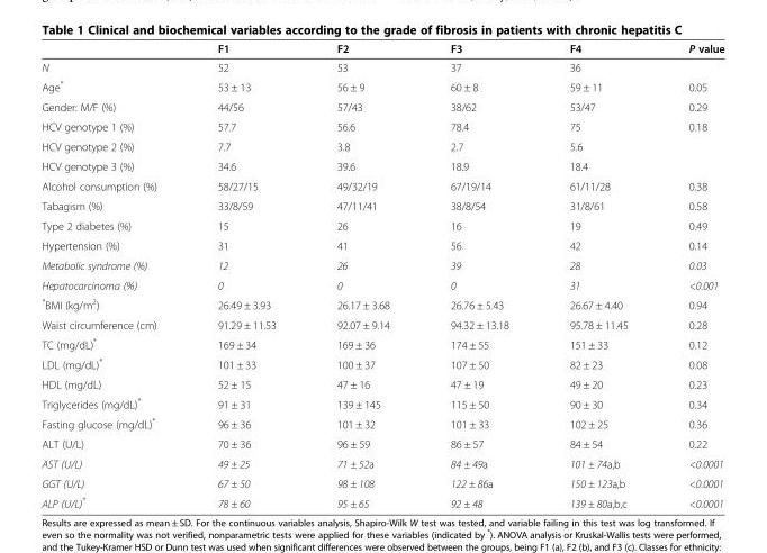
<table><thead><tr><td></td><td>F1</td><td>F2</td><td>F3</td><td>F4</td><td>P value</td></tr></thead><tbody><tr><td>N</td><td>52</td><td>53</td><td>37</td><td>36</td><td></td></tr><tr><td>Age*</td><td>53 ± 13</td><td>56 ± 9</td><td>60 ± 8</td><td>59 ± 11</td><td>0.05</td></tr><tr><td>Gender: M/F (%)</td><td>44/56</td><td>57/43</td><td>38/62</td><td>53/47</td><td>0.29</td></tr><tr><td>HCV genotype 1 (%)</td><td>57.7</td><td>56.6</td><td>78.4</td><td>75</td><td rowspan="3">0.18</td></tr><tr><td>HCV genotype 2 (%)</td><td>7.7</td><td>3.8</td><td>2.7</td><td>5.6</td></tr><tr><td>HCV genotype 3 (%)</td><td>34.6</td><td>39.6</td><td>18.9</td><td>18.4</td></tr><tr><td>Alcohol consumption (%)</td><td>58/27/15</td><td>49/32/19</td><td>67/19/14</td><td>61/11/28</td><td>0.38</td></tr><tr><td>Tabagism (%)</td><td>33/8/59</td><td>47/11/41</td><td>38/8/54</td><td>31/8/61</td><td>0.58</td></tr><tr><td>Type 2 diabetes (%)</td><td>15</td><td>26</td><td>16</td><td>19</td><td>0.49</td></tr><tr><td>Hypertension (%)</td><td>31</td><td>41</td><td>56</td><td>42</td><td>0.14</td></tr><tr><td>Metabolic syndrome (%)</td><td>12</td><td>26</td><td>39</td><td>28</td><td>0.03</td></tr><tr><td>Hepatocarcinoma (%)</td><td>0</td><td>0</td><td>0</td><td>31</td><td>&lt;0.001</td></tr><tr><td>*BMI (kg/m<sup>2</sup>)</td><td>26.49 ± 3.93</td><td>26.17 ± 3.68</td><td>26.76 ± 5.43</td><td>26.67 ± 4.40</td><td>0.94</td></tr><tr><td>Waist circumference (cm)</td><td>91.29 ± 11.53</td><td>92.07 ± 9.14</td><td>94.32 ± 13.18</td><td>95.78 ± 11.45</td><td>0.28</td></tr><tr><td>TC (mg/dL)*</td><td>169 ± 34</td><td>169 ± 36</td><td>174 ± 55</td><td>151 ± 33</td><td>0.12</td></tr><tr><td>LDL (mg/dL)*</td><td>101 ± 33</td><td>100 ± 37</td><td>107 ± 50</td><td>82 ± 23</td><td>0.08</td></tr><tr><td>HDL (mg/dL)</td><td>52 ± 15</td><td>47 ± 16</td><td>47 ± 19</td><td>49 ± 20</td><td>0.23</td></tr><tr><td>Triglycerides (mg/dL)*</td><td>91 ± 31</td><td>139 ± 145</td><td>115 ± 50</td><td>90 ± 30</td><td>0.34</td></tr><tr><td>Fasting glucose (mg/dL)*</td><td>96 ± 36</td><td>101 ± 32</td><td>101 ± 33</td><td>102 ± 25</td><td>0.36</td></tr><tr><td>ALT (U/L)</td><td>70 ± 36</td><td>96 ± 59</td><td>86 ± 57</td><td>84 ± 54</td><td>0.22</td></tr><tr><td>AST (U/L)</td><td>49 ± 25</td><td>71 ± 52a</td><td>84 ± 49a</td><td>101 ± 74a,b</td><td>&lt;0.0001</td></tr><tr><td>GGT (U/L)</td><td>67 ± 50</td><td>98 ± 108</td><td>122 ± 86a</td><td>150 ± 123a,b</td><td>&lt;0.0001</td></tr><tr><td>ALP (U/L)*</td><td>78 ± 60</td><td>95 ± 65</td><td>92 ± 48</td><td>139 ± 80a,b,c</td><td>&lt;0.0001</td></tr></tbody></table>